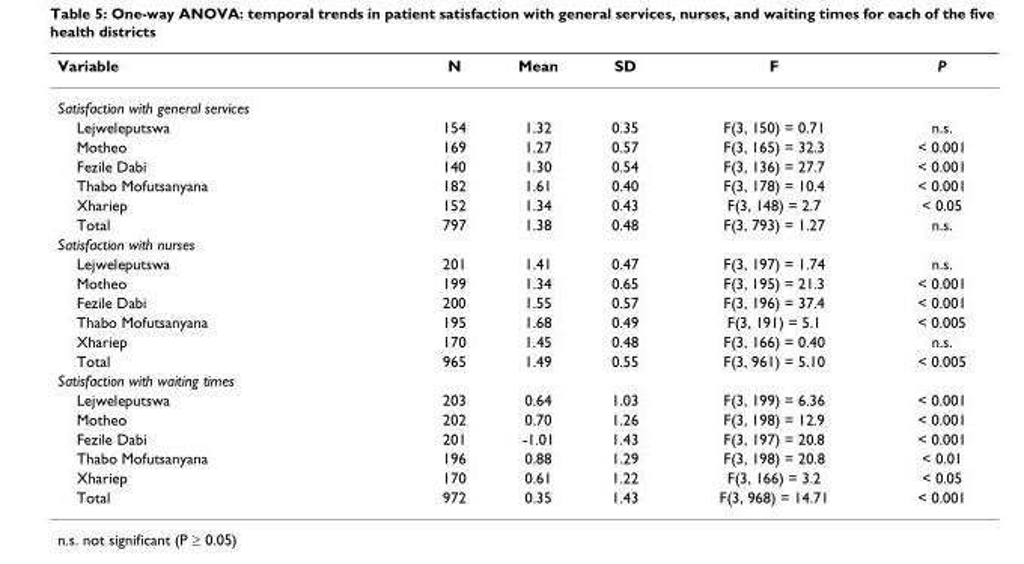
<table><thead><tr><td>Variable</td><td>N</td><td>Mean</td><td>SD</td><td>F</td><td>P</td></tr></thead><tbody><tr><td colspan="6">Satisfaction with general services</td></tr><tr><td>Lejweleputswa</td><td>154</td><td>1.32</td><td>0.35</td><td>F(3, 150) = 0.71</td><td>n.s.</td></tr><tr><td>Motheo</td><td>169</td><td>1.27</td><td>0.57</td><td>F(3, 165) = 32.3</td><td>&lt; 0.001</td></tr><tr><td>Fezile Dabi</td><td>140</td><td>1.30</td><td>0.54</td><td>F(3, 136) = 27.7</td><td>&lt; 0.001</td></tr><tr><td>Thabo Mofutsanyana</td><td>182</td><td>1.61</td><td>0.40</td><td>F(3, 178) = 10.4</td><td>&lt; 0.001</td></tr><tr><td>Xhariep</td><td>152</td><td>1.34</td><td>0.43</td><td>F(3, 148) = 2.7</td><td>&lt; 0.05</td></tr><tr><td>Total</td><td>797</td><td>1.38</td><td>0.48</td><td>F(3, 793) = 1.27</td><td>n.s.</td></tr><tr><td colspan="6">Satisfaction with nurses</td></tr><tr><td>Lejweleputswa</td><td>201</td><td>1.41</td><td>0.47</td><td>F(3, 197) = 1.74</td><td>n.s.</td></tr><tr><td>Motheo</td><td>199</td><td>1.34</td><td>0.65</td><td>F(3, 195) = 21.3</td><td>&lt; 0.001</td></tr><tr><td>Fezile Dabi</td><td>200</td><td>1.55</td><td>0.57</td><td>F(3, 196) = 37.4</td><td>&lt; 0.001</td></tr><tr><td>Thabo Mofutsanyana</td><td>195</td><td>1.68</td><td>0.49</td><td>F(3, 191) = 5.1</td><td>&lt; 0.005</td></tr><tr><td>Xhariep</td><td>170</td><td>1.45</td><td>0.48</td><td>F(3, 166) = 0.40</td><td>n.s.</td></tr><tr><td>Total</td><td>965</td><td>1.49</td><td>0.55</td><td>F(3, 961) = 5.10</td><td>&lt; 0.005</td></tr><tr><td colspan="6">Satisfaction with waiting times</td></tr><tr><td>Lejweleputswa</td><td>203</td><td>0.64</td><td>1.03</td><td>F(3, 199) = 6.36</td><td>&lt; 0.001</td></tr><tr><td>Motheo</td><td>202</td><td>0.70</td><td>1.26</td><td>F(3, 198) = 12.9</td><td>&lt; 0.001</td></tr><tr><td>Fezile Dabi</td><td>201</td><td>-1.01</td><td>1.43</td><td>F(3, 197) = 20.8</td><td>&lt; 0.001</td></tr><tr><td>Thabo Mofutsanyana</td><td>196</td><td>0.88</td><td>1.29</td><td>F(3, 198) = 20.8</td><td>&lt; 0.01</td></tr><tr><td>Xhariep</td><td>170</td><td>0.61</td><td>1.22</td><td>F(3, 166) = 3.2</td><td>&lt; 0.05</td></tr><tr><td>Total</td><td>972</td><td>0.35</td><td>1.43</td><td>F(3, 968) = 14.71</td><td>&lt; 0.001</td></tr></tbody></table>